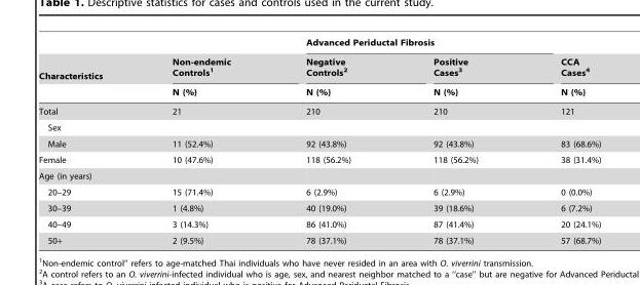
<table><thead><tr><td rowspan="3">Characteristics</td><td rowspan="3">Non-endemic Controls<sup>1</sup> N (%)</td><td colspan="2">Advanced Periductal Fibrosis</td><td rowspan="3">CCA Cases<sup>4</sup> N (%)</td></tr><tr><td rowspan="2">Negative Controls<sup>2</sup> N (%)</td><td rowspan="2">Positive Cases<sup>3</sup> N (%)</td></tr><tr></tr></thead><tbody><tr><td>Total</td><td>21</td><td>210</td><td>210</td><td>121</td></tr><tr><td colspan="5">Sex</td></tr><tr><td>Male</td><td>11 (52.4%)</td><td>92 (43.8%)</td><td>92 (43.8%)</td><td>83 (68.6%)</td></tr><tr><td>Female</td><td>10 (47.6%)</td><td>118 (56.2%)</td><td>118 (56.2%)</td><td>38 (31.4%)</td></tr><tr><td colspan="5">Age (in years)</td></tr><tr><td>20–29</td><td>15 (71.4%)</td><td>6 (2.9%)</td><td>6 (2.9%)</td><td>0 (0.0%)</td></tr><tr><td>30–39</td><td>1 (4.8%)</td><td>40 (19.0%)</td><td>39 (18.6%)</td><td>6 (7.2%)</td></tr><tr><td>40–49</td><td>3 (14.3%)</td><td>86 (41.0%)</td><td>87 (41.4%)</td><td>20 (24.1%)</td></tr><tr><td>50+</td><td>2 (9.5%)</td><td>78 (37.1%)</td><td>78 (37.1%)</td><td>57 (68.7%)</td></tr></tbody></table>